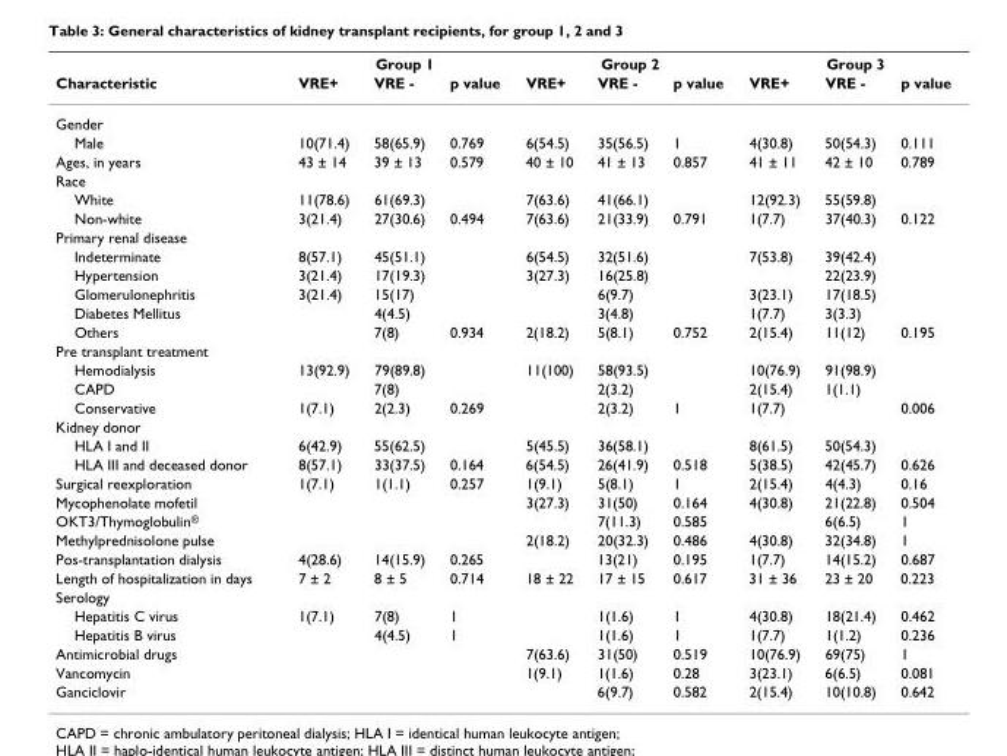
<table><thead><tr><td rowspan="2">Characteristic</td><td colspan="3">Group 1</td><td colspan="3">Group 2</td><td colspan="3">Group 3</td></tr><tr><td>VRE+</td><td>VRE -</td><td>p value</td><td>VRE+</td><td>VRE -</td><td>p value</td><td>VRE+</td><td>VRE -</td><td>p value</td></tr></thead><tbody><tr><td colspan="10">Gender</td></tr><tr><td>Male</td><td>10(71.4)</td><td>58(65.9)</td><td>0.769</td><td>6(54.5)</td><td>35(56.5)</td><td>1</td><td>4(30.8)</td><td>50(54.3)</td><td>0.111</td></tr><tr><td>Ages, in years</td><td>43 ± 14</td><td>39 ± 13</td><td>0.579</td><td>40 ± 10</td><td>41 ± 13</td><td>0.857</td><td>41 ± 11</td><td>42 ± 10</td><td>0.789</td></tr><tr><td colspan="10">Race</td></tr><tr><td>White</td><td>11(78.6)</td><td>61(69.3)</td><td></td><td>7(63.6)</td><td>41(66.1)</td><td></td><td>12(92.3)</td><td>55(59.8)</td><td></td></tr><tr><td>Non-white</td><td>3(21.4)</td><td>27(30.6)</td><td>0.494</td><td>7(63.6)</td><td>21(33.9)</td><td>0.791</td><td>1(7.7)</td><td>37(40.3)</td><td>0.122</td></tr><tr><td colspan="10">Primary renal disease</td></tr><tr><td>Indeterminate</td><td>8(57.1)</td><td>45(51.1)</td><td></td><td>6(54.5)</td><td>32(51.6)</td><td></td><td>7(53.8)</td><td>39(42.4)</td><td></td></tr><tr><td>Hypertension</td><td>3(21.4)</td><td>17(19.3)</td><td></td><td>3(27.3)</td><td>16(25.8)</td><td></td><td></td><td>22(23.9)</td><td></td></tr><tr><td>Glomerulonephritis</td><td>3(21.4)</td><td>15(17)</td><td></td><td></td><td>6(9.7)</td><td></td><td>3(23.1)</td><td>17(18.5)</td><td></td></tr><tr><td>Diabetes Mellitus</td><td></td><td>4(4.5)</td><td></td><td></td><td>3(4.8)</td><td></td><td>1(7.7)</td><td>3(3.3)</td><td></td></tr><tr><td>Others</td><td></td><td>7(8)</td><td>0.934</td><td>2(18.2)</td><td>5(8.1)</td><td>0.752</td><td>2(15.4)</td><td>11(12)</td><td>0.195</td></tr><tr><td colspan="10">Pre transplant treatment</td></tr><tr><td>Hemodialysis</td><td>13(92.9)</td><td>79(89.8)</td><td></td><td>11(100)</td><td>58(93.5)</td><td></td><td>10(76.9)</td><td>91(98.9)</td><td></td></tr><tr><td>CAPD</td><td></td><td>7(8)</td><td></td><td></td><td>2(3.2)</td><td></td><td>2(15.4)</td><td>1(1.1)</td><td></td></tr><tr><td>Conservative</td><td>1(7.1)</td><td>2(2.3)</td><td>0.269</td><td></td><td>2(3.2)</td><td>1</td><td>1(7.7)</td><td></td><td>0.006</td></tr><tr><td colspan="10">Kidney donor</td></tr><tr><td>HLA I and II</td><td>6(42.9)</td><td>55(62.5)</td><td></td><td>5(45.5)</td><td>36(58.1)</td><td></td><td>8(61.5)</td><td>50(54.3)</td><td></td></tr><tr><td>HLA III and deceased donor</td><td>8(57.1)</td><td>33(37.5)</td><td>0.164</td><td>6(54.5)</td><td>26(41.9)</td><td>0.518</td><td>5(38.5)</td><td>42(45.7)</td><td>0.626</td></tr><tr><td>Surgical reexploration</td><td>1(7.1)</td><td>1(1.1)</td><td>0.257</td><td>1(9.1)</td><td>5(8.1)</td><td>1</td><td>2(15.4)</td><td>4(4.3)</td><td>0.16</td></tr><tr><td>Mycophenolate mofetil</td><td></td><td></td><td></td><td>3(27.3)</td><td>31(50)</td><td>0.164</td><td>4(30.8)</td><td>21(22.8)</td><td>0.504</td></tr><tr><td>OKT3/Thymoglobulin<sup>®</sup></td><td></td><td></td><td></td><td></td><td>7(11.3)</td><td>0.585</td><td></td><td>6(6.5)</td><td>1</td></tr><tr><td>Methylprednisolone pulse</td><td></td><td></td><td></td><td>2(18.2)</td><td>20(32.3)</td><td>0.486</td><td>4(30.8)</td><td>32(34.8)</td><td>1</td></tr><tr><td>Pos-transplantation dialysis</td><td>4(28.6)</td><td>14(15.9)</td><td>0.265</td><td></td><td>13(21)</td><td>0.195</td><td>1(7.7)</td><td>14(15.2)</td><td>0.687</td></tr><tr><td>Length of hospitalization in days</td><td>7 ± 2</td><td>8 ± 5</td><td>0.714</td><td>18 ± 22</td><td>17 ± 15</td><td>0.617</td><td>31 ± 36</td><td>23 ± 20</td><td>0.223</td></tr><tr><td colspan="10">Serology</td></tr><tr><td>Hepatitis C virus</td><td>1(7.1)</td><td>7(8)</td><td>1</td><td></td><td>1(1.6)</td><td>1</td><td>4(30.8)</td><td>18(21.4)</td><td>0.462</td></tr><tr><td>Hepatitis B virus</td><td></td><td>4(4.5)</td><td>1</td><td></td><td>1(1.6)</td><td>1</td><td>1(7.7)</td><td>1(1.2)</td><td>0.236</td></tr><tr><td>Antimicrobial drugs</td><td></td><td></td><td></td><td>7(63.6)</td><td>31(50)</td><td>0.519</td><td>10(76.9)</td><td>69(75)</td><td>1</td></tr><tr><td>Vancomycin</td><td></td><td></td><td></td><td>1(9.1)</td><td>1(1.6)</td><td>0.28</td><td>3(23.1)</td><td>6(6.5)</td><td>0.081</td></tr><tr><td>Ganciclovir</td><td></td><td></td><td></td><td></td><td>6(9.7)</td><td>0.582</td><td>2(15.4)</td><td>10(10.8)</td><td>0.642</td></tr></tbody></table>